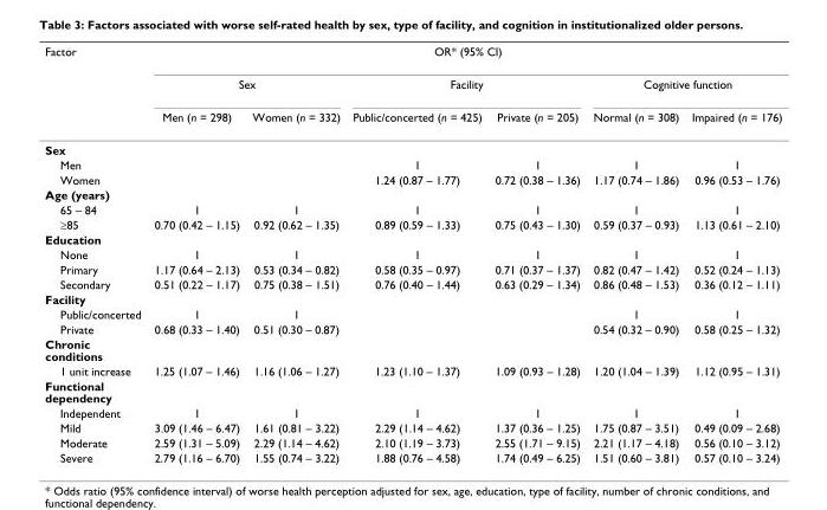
<table><thead><tr><td rowspan="3">Factor</td><td colspan="6">OR* (95% CI)</td></tr><tr><td colspan="2">Sex</td><td colspan="2">Facility</td><td colspan="2">Cognitive function</td></tr><tr><td>Men (n = 298)</td><td>Women (n = 332)</td><td>Public/concerted (n = 425)</td><td>Private (n = 205)</td><td>Normal (n = 308)</td><td>Impaired (n = 176)</td></tr></thead><tbody><tr><td colspan="7">Sex</td></tr><tr><td>Men</td><td></td><td></td><td>1</td><td>1</td><td>1</td><td>1</td></tr><tr><td>Women</td><td></td><td></td><td>1.24 (0.87 – 1.77)</td><td>0.72 (0.38 – 1.36)</td><td>1.17 (0.74 – 1.86)</td><td>0.96 (0.53 – 1.76)</td></tr><tr><td colspan="7">Age (years)</td></tr><tr><td>65 – 84</td><td>1</td><td>1</td><td>1</td><td>1</td><td>1</td><td>1</td></tr><tr><td>≥85</td><td>0.70 (0.42 – 1.15)</td><td>0.92 (0.62 – 1.35)</td><td>0.89 (0.59 – 1.33)</td><td>0.75 (0.43 – 1.30)</td><td>0.59 (0.37 – 0.93)</td><td>1.13 (0.61 – 2.10)</td></tr><tr><td colspan="7">Education</td></tr><tr><td>None</td><td>1</td><td>1</td><td>1</td><td>1</td><td>1</td><td>1</td></tr><tr><td>Primary</td><td>1.17 (0.64 – 2.13)</td><td>0.53 (0.34 – 0.82)</td><td>0.58 (0.35 – 0.97)</td><td>0.71 (0.37 – 1.37)</td><td>0.82 (0.47 – 1.42)</td><td>0.52 (0.24 – 1.13)</td></tr><tr><td>Secondary</td><td>0.51 (0.22 – 1.17)</td><td>0.75 (0.38 – 1.51)</td><td>0.76 (0.40 – 1.44)</td><td>0.63 (0.29 – 1.34)</td><td>0.86 (0.48 – 1.53)</td><td>0.36 (0.12 – 1.11)</td></tr><tr><td colspan="7">Facility</td></tr><tr><td>Public/concerted</td><td>1</td><td>1</td><td></td><td></td><td>1</td><td>1</td></tr><tr><td>Private</td><td>0.68 (0.33 – 1.40)</td><td>0.51 (0.30 – 0.87)</td><td></td><td></td><td>0.54 (0.32 – 0.90)</td><td>0.58 (0.25 – 1.32)</td></tr><tr><td colspan="7">Chronic conditions</td></tr><tr><td>1 unit increase</td><td>1.25 (1.07 – 1.46)</td><td>1.16 (1.06 – 1.27)</td><td>1.23 (1.10 – 1.37)</td><td>1.09 (0.93 – 1.28)</td><td>1.20 (1.04 – 1.39)</td><td>1.12 (0.95 – 1.31)</td></tr><tr><td colspan="7">Functional dependency</td></tr><tr><td>Independent</td><td>1</td><td>1</td><td>1</td><td>1</td><td>1</td><td>1</td></tr><tr><td>Mild</td><td>3.09 (1.46 – 6.47)</td><td>1.61 (0.81 – 3.22)</td><td>2.29 (1.14 – 4.62)</td><td>1.37 (0.36 – 1.25)</td><td>1.75 (0.87 – 3.51)</td><td>0.49 (0.09 – 2.68)</td></tr><tr><td>Moderate</td><td>2.59 (1.31 – 5.09)</td><td>2.29 (1.14 – 4.62)</td><td>2.10 (1.19 – 3.73)</td><td>2.55 (1.71 – 9.15)</td><td>2.21 (1.17 – 4.18)</td><td>0.56 (0.10 – 3.12)</td></tr><tr><td>Severe</td><td>2.79 (1.16 – 6.70)</td><td>1.55 (0.74 – 3.22)</td><td>1.88 (0.76 – 4.58)</td><td>1.74 (0.49 – 6.25)</td><td>1.51 (0.60 – 3.81)</td><td>0.57 (0.10 – 3.24)</td></tr></tbody></table>